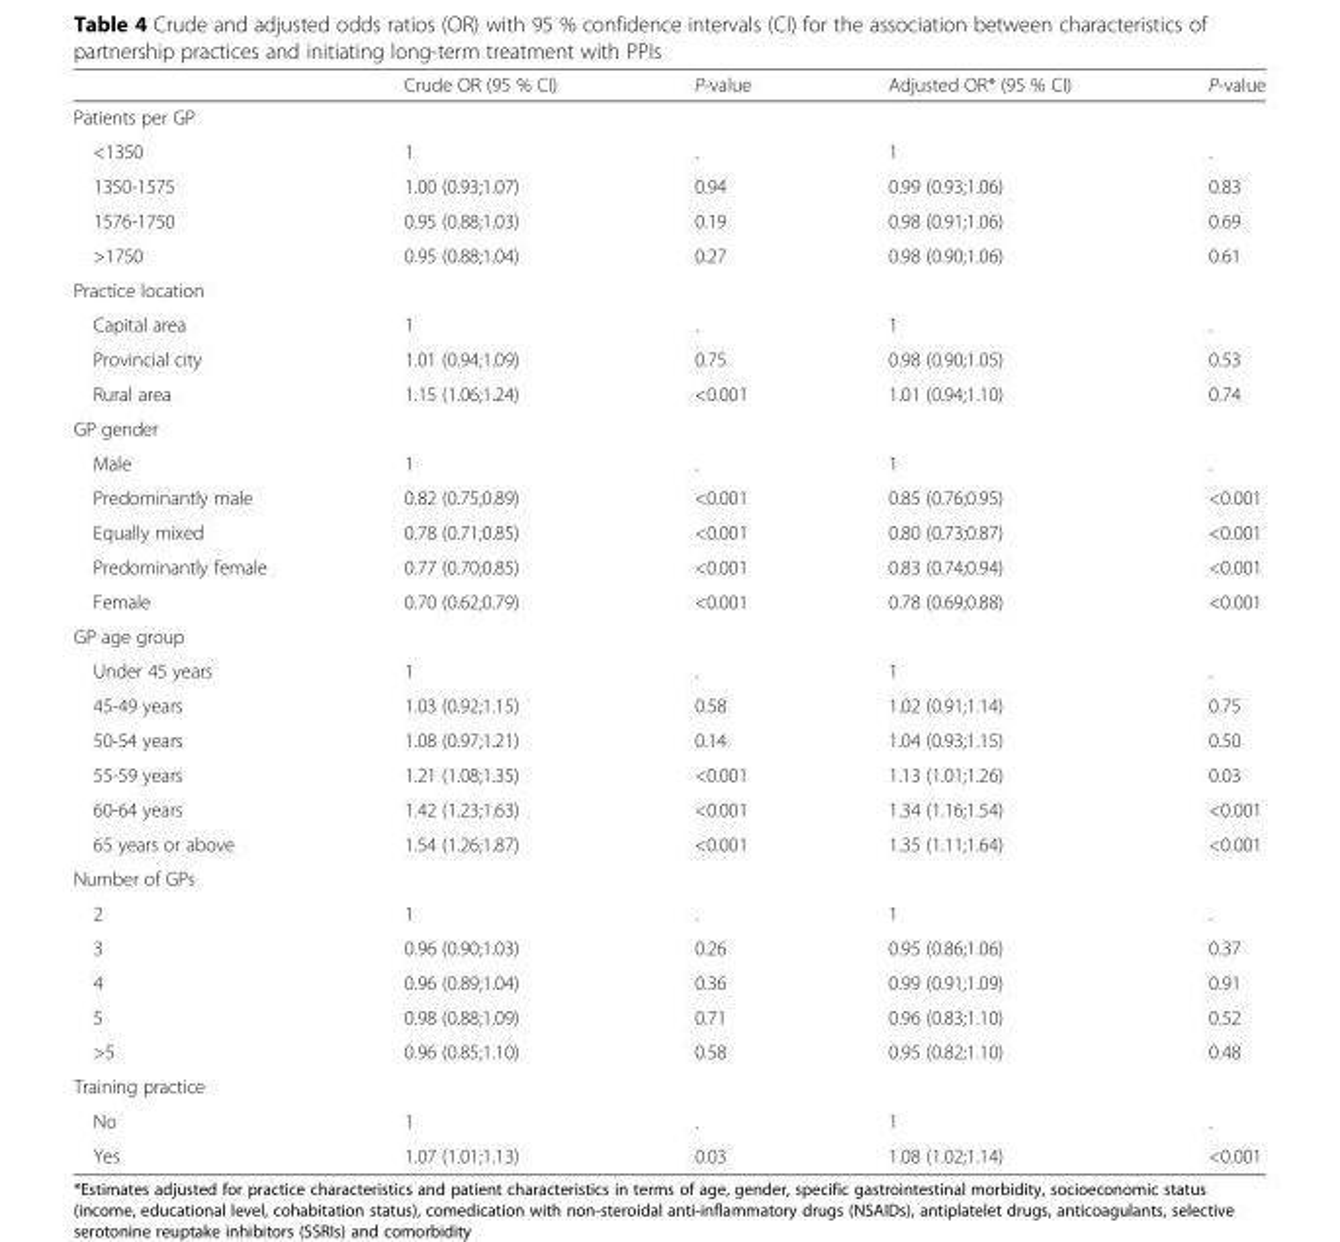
<table><thead><tr><td></td><td>Crude OR (95 % CI)</td><td>P-value</td><td>Adjusted OR* (95 % CI)</td><td>P-value</td></tr></thead><tbody><tr><td colspan="5">Patients per GP</td></tr><tr><td>&lt;1350</td><td>1</td><td>.</td><td>1</td><td>.</td></tr><tr><td>1350-1575</td><td>1.00 (0.93;1.07)</td><td>0.94</td><td>0.99 (0.93;1.06)</td><td>0.83</td></tr><tr><td>1576-1750</td><td>0.95 (0.88;1.03)</td><td>0.19</td><td>0.98 (0.91;1.06)</td><td>0.69</td></tr><tr><td>&gt;1750</td><td>0.95 (0.88;1.04)</td><td>0.27</td><td>0.98 (0.90;1.06)</td><td>0.61</td></tr><tr><td colspan="5">Practice location</td></tr><tr><td>Capital area</td><td>1</td><td>.</td><td>1</td><td>.</td></tr><tr><td>Provincial city</td><td>1.01 (0.94;1.09)</td><td>0.75</td><td>0.98 (0.90;1.05)</td><td>0.53</td></tr><tr><td>Rural area</td><td>1.15 (1.06;1.24)</td><td>&lt;0.001</td><td>1.01 (0.94;1.10)</td><td>0.74</td></tr><tr><td colspan="5">GP gender</td></tr><tr><td>Male</td><td>1</td><td>.</td><td>1</td><td>.</td></tr><tr><td>Predominantly male</td><td>0.82 (0.75;0.89)</td><td>&lt;0.001</td><td>0.85 (0.76;0.95)</td><td>&lt;0.001</td></tr><tr><td>Equally mixed</td><td>0.78 (0.71;0.85)</td><td>&lt;0.001</td><td>0.80 (0.73;0.87)</td><td>&lt;0.001</td></tr><tr><td>Predominantly female</td><td>0.77 (0.70;0.85)</td><td>&lt;0.001</td><td>0.83 (0.74;0.94)</td><td>&lt;0.001</td></tr><tr><td>Female</td><td>0.70 (0.62;0.79)</td><td>&lt;0.001</td><td>0.78 (0.69;0.88)</td><td>&lt;0.001</td></tr><tr><td colspan="5">GP age group</td></tr><tr><td>Under 45 years</td><td>1</td><td>.</td><td>1</td><td>.</td></tr><tr><td>45-49 years</td><td>1.03 (0.92;1.15)</td><td>0.58</td><td>1.02 (0.91;1.14)</td><td>0.75</td></tr><tr><td>50-54 years</td><td>1.08 (0.97;1.21)</td><td>0.14</td><td>1.04 (0.93;1.15)</td><td>0.50</td></tr><tr><td>55-59 years</td><td>1.21 (1.08;1.35)</td><td>&lt;0.001</td><td>1.13 (1.01;1.26)</td><td>0.03</td></tr><tr><td>60-64 years</td><td>1.42 (1.23;1.63)</td><td>&lt;0.001</td><td>1.34 (1.16;1.54)</td><td>&lt;0.001</td></tr><tr><td>65 years or above</td><td>1.54 (1.26;1.87)</td><td>&lt;0.001</td><td>1.35 (1.11;1.64)</td><td>&lt;0.001</td></tr><tr><td colspan="5">Number of GPs</td></tr><tr><td>2</td><td>1</td><td>.</td><td>1</td><td>.</td></tr><tr><td>3</td><td>0.96 (0.90;1.03)</td><td>0.26</td><td>0.95 (0.86;1.06)</td><td>0.37</td></tr><tr><td>4</td><td>0.96 (0.89;1.04)</td><td>0.36</td><td>0.99 (0.91;1.09)</td><td>0.91</td></tr><tr><td>5</td><td>0.98 (0.88;1.09)</td><td>0.71</td><td>0.96 (0.83;1.10)</td><td>0.52</td></tr><tr><td>&gt;5</td><td>0.96 (0.85;1.10)</td><td>0.58</td><td>0.95 (0.82;1.10)</td><td>0.48</td></tr><tr><td colspan="5">Training practice</td></tr><tr><td>No</td><td>1</td><td>.</td><td>1</td><td>.</td></tr><tr><td>Yes</td><td>1.07 (1.01;1.13)</td><td>0.03</td><td>1.08 (1.02;1.14)</td><td>&lt;0.001</td></tr></tbody></table>